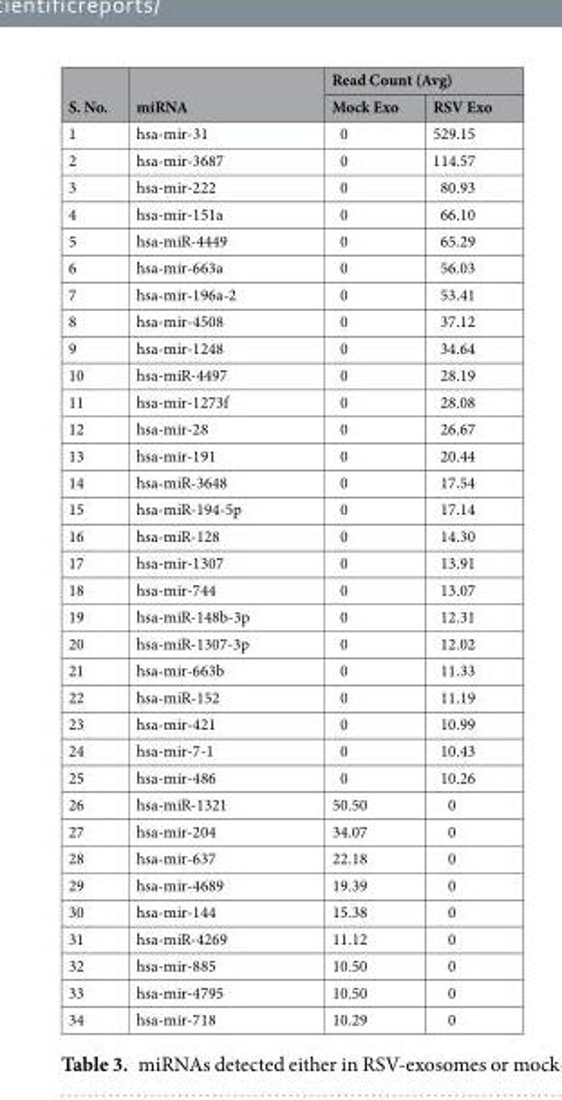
<table><thead><tr><td rowspan="2">S. No.</td><td rowspan="2">miRNA</td><td colspan="2">Read Count (Avg)</td></tr><tr><td>Mock Exo</td><td>RSV Exo</td></tr></thead><tbody><tr><td>1</td><td>hsa-mir-31</td><td>0</td><td>529.15</td></tr><tr><td>2</td><td>hsa-mir-3687</td><td>0</td><td>114.57</td></tr><tr><td>3</td><td>hsa-mir-222</td><td>0</td><td>80.93</td></tr><tr><td>4</td><td>hsa-mir-151a</td><td>0</td><td>66.10</td></tr><tr><td>5</td><td>hsa-miR-4449</td><td>0</td><td>65.29</td></tr><tr><td>6</td><td>hsa-mir-663a</td><td>0</td><td>56.03</td></tr><tr><td>7</td><td>hsa-mir-196a-2</td><td>0</td><td>53.41</td></tr><tr><td>8</td><td>hsa-mir-4508</td><td>0</td><td>37.12</td></tr><tr><td>9</td><td>hsa-mir-1248</td><td>0</td><td>34.64</td></tr><tr><td>10</td><td>hsa-miR-4497</td><td>0</td><td>28.19</td></tr><tr><td>11</td><td>hsa-mir-1273f</td><td>0</td><td>28.08</td></tr><tr><td>12</td><td>hsa-mir-28</td><td>0</td><td>26.67</td></tr><tr><td>13</td><td>hsa-mir-191</td><td>0</td><td>20.44</td></tr><tr><td>14</td><td>hsa-miR-3648</td><td>0</td><td>17.54</td></tr><tr><td>15</td><td>hsa-miR-194-5p</td><td>0</td><td>17.14</td></tr><tr><td>16</td><td>hsa-miR-128</td><td>0</td><td>14.30</td></tr><tr><td>17</td><td>hsa-mir-1307</td><td>0</td><td>13.91</td></tr><tr><td>18</td><td>hsa-mir-744</td><td>0</td><td>13.07</td></tr><tr><td>19</td><td>hsa-miR-148b-3p</td><td>0</td><td>12.31</td></tr><tr><td>20</td><td>hsa-miR-1307-3p</td><td>0</td><td>12.02</td></tr><tr><td>21</td><td>hsa-mir-663b</td><td>0</td><td>11.33</td></tr><tr><td>22</td><td>hsa-miR-152</td><td>0</td><td>11.19</td></tr><tr><td>23</td><td>hsa-mir-421</td><td>0</td><td>10.99</td></tr><tr><td>24</td><td>hsa-mir-7-1</td><td>0</td><td>10.43</td></tr><tr><td>25</td><td>hsa-mir-486</td><td>0</td><td>10.26</td></tr><tr><td>26</td><td>hsa-miR-1321</td><td>50.50</td><td>0</td></tr><tr><td>27</td><td>hsa-mir-204</td><td>34.07</td><td>0</td></tr><tr><td>28</td><td>hsa-mir-637</td><td>22.18</td><td>0</td></tr><tr><td>29</td><td>hsa-mir-4689</td><td>19.39</td><td>0</td></tr><tr><td>30</td><td>hsa-mir-144</td><td>15.38</td><td>0</td></tr><tr><td>31</td><td>hsa-miR-4269</td><td>11.12</td><td>0</td></tr><tr><td>32</td><td>hsa-mir-885</td><td>10.50</td><td>0</td></tr><tr><td>33</td><td>hsa-mir-4795</td><td>10.50</td><td>0</td></tr><tr><td>34</td><td>hsa-mir-718</td><td>10.29</td><td>0</td></tr></tbody></table>